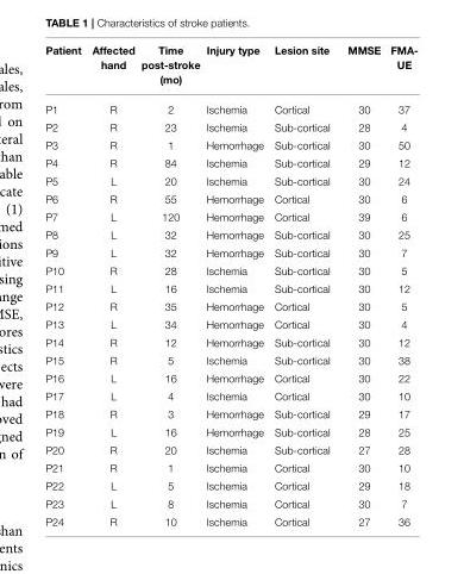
<table><thead><tr><td>Patient</td><td>Affected hand</td><td>Time post-stroke (mo)</td><td>Injury type</td><td>Lesion site</td><td>MMSE</td><td>FMA- UE</td></tr></thead><tbody><tr><td>P1</td><td>R</td><td>2</td><td>Ischemia</td><td>Cortical</td><td>30</td><td>37</td></tr><tr><td>P2</td><td>R</td><td>23</td><td>Ischemia</td><td>Sub-cortical</td><td>28</td><td>4</td></tr><tr><td>P3</td><td>R</td><td>1</td><td>Hemorrhage</td><td>Sub-cortical</td><td>30</td><td>50</td></tr><tr><td>P4</td><td>R</td><td>84</td><td>Ischemia</td><td>Sub-cortical</td><td>29</td><td>12</td></tr><tr><td>P5</td><td>L</td><td>20</td><td>Ischemia</td><td>Sub-cortical</td><td>30</td><td>24</td></tr><tr><td>P6</td><td>R</td><td>55</td><td>Hemorrhage</td><td>Cortical</td><td>30</td><td>6</td></tr><tr><td>P7</td><td>L</td><td>120</td><td>Hemorrhage</td><td>Cortical</td><td>39</td><td>6</td></tr><tr><td>P8</td><td>L</td><td>32</td><td>Hemorrhage</td><td>Sub-cortical</td><td>30</td><td>25</td></tr><tr><td>P9</td><td>L</td><td>32</td><td>Hemorrhage</td><td>Sub-cortical</td><td>30</td><td>7</td></tr><tr><td>P10</td><td>R</td><td>28</td><td>Ischemia</td><td>Sub-cortical</td><td>30</td><td>5</td></tr><tr><td>P11</td><td>L</td><td>16</td><td>Ischemia</td><td>Sub-cortical</td><td>30</td><td>12</td></tr><tr><td>P12</td><td>R</td><td>35</td><td>Hemorrhage</td><td>Cortical</td><td>30</td><td>5</td></tr><tr><td>P13</td><td>L</td><td>34</td><td>Hemorrhage</td><td>Cortical</td><td>30</td><td>4</td></tr><tr><td>P14</td><td>R</td><td>12</td><td>Hemorrhage</td><td>Sub-cortical</td><td>30</td><td>12</td></tr><tr><td>P15</td><td>R</td><td>5</td><td>Ischemia</td><td>Sub-cortical</td><td>30</td><td>38</td></tr><tr><td>P16</td><td>L</td><td>16</td><td>Hemorrhage</td><td>Cortical</td><td>30</td><td>22</td></tr><tr><td>P17</td><td>L</td><td>4</td><td>Ischemia</td><td>Cortical</td><td>30</td><td>10</td></tr><tr><td>P18</td><td>R</td><td>3</td><td>Hemorrhage</td><td>Sub-cortical</td><td>29</td><td>17</td></tr><tr><td>P19</td><td>L</td><td>16</td><td>Hemorrhage</td><td>Sub-cortical</td><td>28</td><td>25</td></tr><tr><td>P20</td><td>R</td><td>20</td><td>Ischemia</td><td>Sub-cortical</td><td>27</td><td>28</td></tr><tr><td>P21</td><td>R</td><td>1</td><td>Ischemia</td><td>Cortical</td><td>30</td><td>10</td></tr><tr><td>P22</td><td>L</td><td>5</td><td>Ischemia</td><td>Cortical</td><td>29</td><td>18</td></tr><tr><td>P23</td><td>L</td><td>8</td><td>Ischemia</td><td>Cortical</td><td>30</td><td>7</td></tr><tr><td>P24</td><td>R</td><td>10</td><td>Ischemia</td><td>Cortical</td><td>27</td><td>36</td></tr></tbody></table>